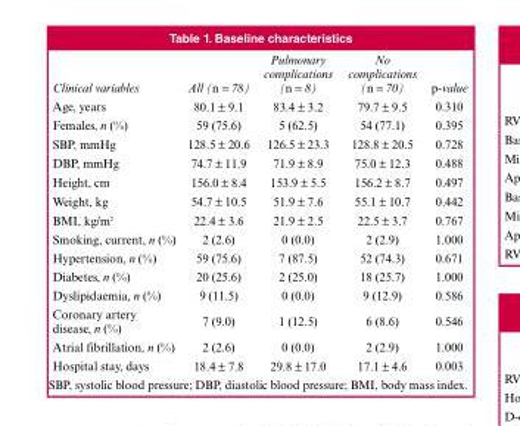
<table><thead><tr><td>Clinical variables</td><td>All (n = 78)</td><td>Pulmonary complications (n = 8)</td><td>No complications (n = 70)</td><td>p-value</td></tr></thead><tbody><tr><td>Age, years</td><td>80.1 ± 9.1</td><td>83.4 ± 3.2</td><td>79.7 ± 9.5</td><td>0.310</td></tr><tr><td>Females, n (%)</td><td>59 (75.6)</td><td>5 (62.5)</td><td>54 (77.1)</td><td>0.395</td></tr><tr><td>SBP, mmHg</td><td>128.5 ± 20.6</td><td>126.5 ± 23.3</td><td>128.8 ± 20.5</td><td>0.728</td></tr><tr><td>DBP, mmHg</td><td>74.7 ± 11.9</td><td>71.9 ± 8.9</td><td>75.0 ± 12.3</td><td>0.488</td></tr><tr><td>Height, cm</td><td>156.0 ± 8.4</td><td>153.9 ± 5.5</td><td>156.2 ± 8.7</td><td>0.497</td></tr><tr><td>Weight, kg</td><td>54.7 ± 10.5</td><td>51.9 ± 7.6</td><td>55.1 ± 10.7</td><td>0.442</td></tr><tr><td>BMI, kg/m<sup>2</sup></td><td>22.4 ± 3.6</td><td>21.9 ± 2.5</td><td>22.5 ± 3.7</td><td>0.767</td></tr><tr><td>Smoking, current, n (%)</td><td>2 (2.6)</td><td>0 (0.0)</td><td>2 (2.9)</td><td>1.000</td></tr><tr><td>Hypertension, n (%)</td><td>59 (75.6)</td><td>7 (87.5)</td><td>52 (74.3)</td><td>0.671</td></tr><tr><td>Diabetes, n (%)</td><td>20 (25.6)</td><td>2 (25.0)</td><td>18 (25.7)</td><td>1.000</td></tr><tr><td>Dyslipidaemia, n (%)</td><td>9 (11.5)</td><td>0 (0.0)</td><td>9 (12.9)</td><td>0.586</td></tr><tr><td>Coronary artery disease, n (%)</td><td>7 (9.0)</td><td>1 (12.5)</td><td>6 (8.6)</td><td>0.546</td></tr><tr><td>Atrial fibrillation, n (%)</td><td>2 (2.6)</td><td>0 (0.0)</td><td>2 (2.9)</td><td>1.000</td></tr><tr><td>Hospital stay, days</td><td>18.4 ± 7.8</td><td>29.8 ± 17.0</td><td>17.1 ± 4.6</td><td>0.003</td></tr></tbody></table>